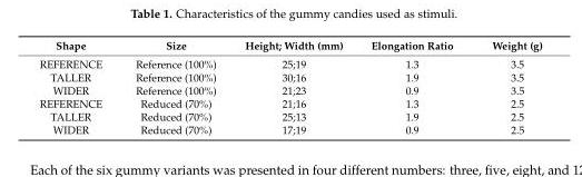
<table><thead><tr><td>Shape</td><td>Size</td><td>Height; Width (mm)</td><td>Elongation Ratio</td><td>Weight (g)</td></tr></thead><tbody><tr><td>REFERENCE</td><td>Reference (100%)</td><td>25;19</td><td>1.3</td><td>3.5</td></tr><tr><td>TALLER</td><td>Reference (100%)</td><td>30;16</td><td>1.9</td><td>3.5</td></tr><tr><td>WIDER</td><td>Reference (100%)</td><td>21;23</td><td>0.9</td><td>3.5</td></tr><tr><td>REFERENCE</td><td>Reduced (70%)</td><td>21;16</td><td>1.3</td><td>2.5</td></tr><tr><td>TALLER</td><td>Reduced (70%)</td><td>25;13</td><td>1.9</td><td>2.5</td></tr><tr><td>WIDER</td><td>Reduced (70%)</td><td>17;19</td><td>0.9</td><td>2.5</td></tr></tbody></table>